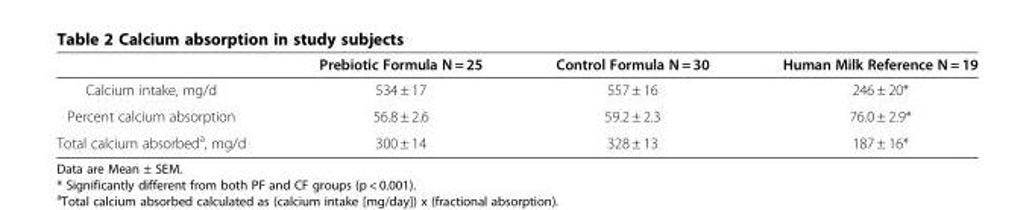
<table><thead><tr><td></td><td>Prebiotic Formula N = 25</td><td>Control Formula N = 30</td><td>Human Milk Reference N = 19</td></tr></thead><tbody><tr><td>Calcium intake, mg/d</td><td>534 ± 17</td><td>557 ± 16</td><td>246 ± 20*</td></tr><tr><td>Percent calcium absorption</td><td>56.8 ± 2.6</td><td>59.2 ± 2.3</td><td>76.0 ± 2.9*</td></tr><tr><td>Total calcium absorbed<sup>a</sup>, mg/d</td><td>300 ± 14</td><td>328 ± 13</td><td>187 ± 16*</td></tr></tbody></table>